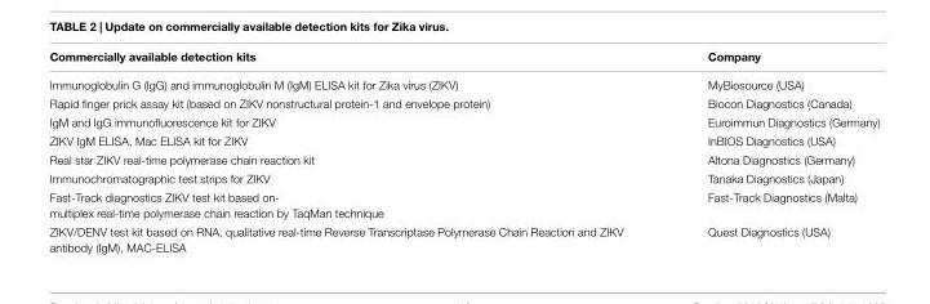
<table><thead><tr><td>Commercially available detection kits</td><td>Company</td></tr></thead><tbody><tr><td>Immunoglobulin G (IgG) and immunoglobulin M (IgM) ELISA kit for Zika virus (ZIKV)</td><td>MyBiosource (USA)</td></tr><tr><td>Rapid finger prick assay kit (based on ZIKV nonstructural protein-1 and envelope protein)</td><td>Biocon Diagnostics (Canada)</td></tr><tr><td>IgM and IgG immunofluorescence kit for ZIKV</td><td>Euroimmun Diagnostics (Germany)</td></tr><tr><td>ZIKV IgM ELISA, Mac ELISA kit for ZIKV</td><td>InBIOS Diagnostics (USA)</td></tr><tr><td>Real star ZIKV real-time polymerase chain reaction kit</td><td>Altona Diagnostics (Germany)</td></tr><tr><td>Immunochromatographic test strips for ZIKV</td><td>Tanaka Diagnostics (Japan)</td></tr><tr><td>Fast-Track diagnostics ZIKV test kit based on- multiplex real-time polymerase chain reaction by TaqMan technique</td><td>Fast-Track Diagnostics (Malta)</td></tr><tr><td>ZIKV/DENV test kit based on RNA, qualitative real-time Reverse Transcriptase Polymerase Chain Reaction and ZIKV antibody (IgM), MAC-ELISA</td><td>Quest Diagnostics (USA)</td></tr></tbody></table>